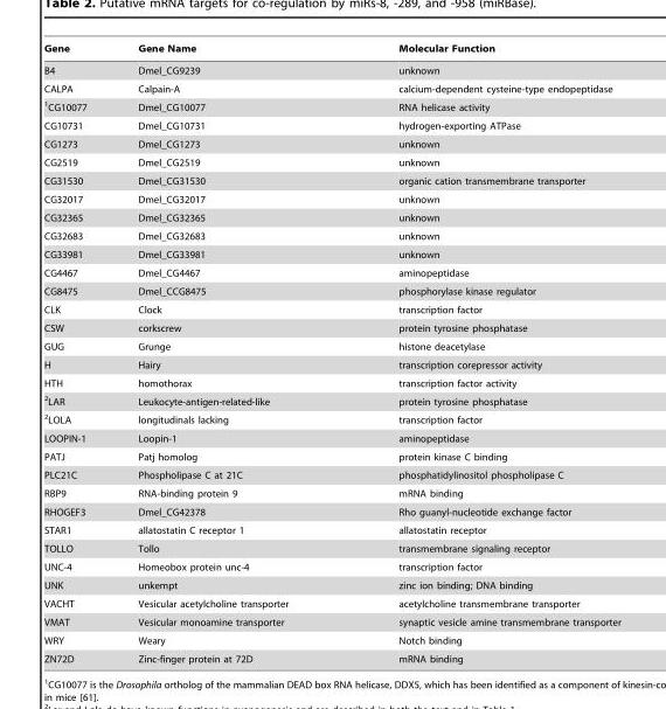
<table><thead><tr><td>Gene</td><td>Gene Name</td><td>Molecular Function</td></tr></thead><tbody><tr><td>B4</td><td>Dmel_CG9239</td><td>unknown</td></tr><tr><td>CALPA</td><td>Calpain-A</td><td>calcium-dependent cysteine-type endopeptidase</td></tr><tr><td>1CG10077</td><td>Dmel_CG10077</td><td>RNA helicase activity</td></tr><tr><td>CG10731</td><td>Dmel_CG10731</td><td>hydrogen-exporting ATPase</td></tr><tr><td>CG1273</td><td>Dmel_CG1273</td><td>unknown</td></tr><tr><td>CG2519</td><td>Dmel_CG2519</td><td>unknown</td></tr><tr><td>CG31530</td><td>Dmel_CG31530</td><td>organic cation transmembrane transporter</td></tr><tr><td>CG32017</td><td>Dmel_CG32017</td><td>unknown</td></tr><tr><td>CG32365</td><td>Dmel_CG32365</td><td>unknown</td></tr><tr><td>CG32683</td><td>Dmel_CG32683</td><td>unknown</td></tr><tr><td>CG33981</td><td>Dmel_CG33981</td><td>unknown</td></tr><tr><td>CG4467</td><td>Dmel_CG4467</td><td>aminopeptidase</td></tr><tr><td>CG8475</td><td>Dmel_CCG8475</td><td>phosphorylase kinase regulator</td></tr><tr><td>CLK</td><td>Clock</td><td>transcription factor</td></tr><tr><td>CSW</td><td>corkscrew</td><td>protein tyrosine phosphatase</td></tr><tr><td>GUG</td><td>Grunge</td><td>histone deacetylase</td></tr><tr><td>H</td><td>Hairy</td><td>transcription corepressor activity</td></tr><tr><td>HTH</td><td>homothorax</td><td>transcription factor activity</td></tr><tr><td>2LAR</td><td>Leukocyte-antigen-related-like</td><td>protein tyrosine phosphatase</td></tr><tr><td>2LOLA</td><td>longitudinals lacking</td><td>transcription factor</td></tr><tr><td>LOOPIN-1</td><td>Loopin-1</td><td>aminopeptidase</td></tr><tr><td>PATJ</td><td>Patj homolog</td><td>protein kinase C binding</td></tr><tr><td>PLC21C</td><td>Phospholipase C at 21C</td><td>phosphatidylinositol phospholipase C</td></tr><tr><td>RBP9</td><td>RNA-binding protein 9</td><td>mRNA binding</td></tr><tr><td>RHOGEF3</td><td>Dmel_CG42378</td><td>Rho guanyl-nucleotide exchange factor</td></tr><tr><td>STAR1</td><td>allatostatin C receptor 1</td><td>allatostatin receptor</td></tr><tr><td>TOLLO</td><td>Tollo</td><td>transmembrane signaling receptor</td></tr><tr><td>UNC-4</td><td>Homeobox protein unc-4</td><td>transcription factor</td></tr><tr><td>UNK</td><td>unkempt</td><td>zinc ion binding; DNA binding</td></tr><tr><td>VACHT</td><td>Vesicular acetylcholine transporter</td><td>acetylcholine transmembrane transporter</td></tr><tr><td>VMAT</td><td>Vesicular monoamine transporter</td><td>synaptic vesicle amine transmembrane transporter</td></tr><tr><td>WRY</td><td>Weary</td><td>Notch binding</td></tr><tr><td>ZN72D</td><td>Zinc-finger protein at 72D</td><td>mRNA binding</td></tr></tbody></table>